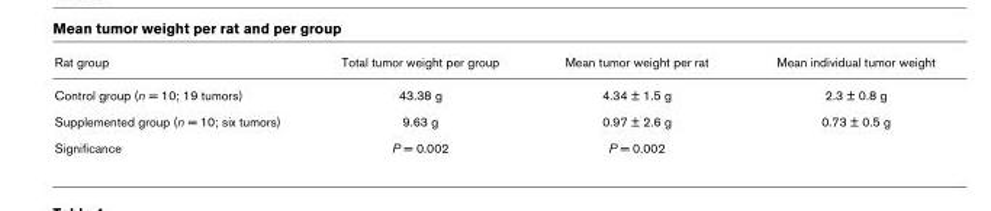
<table><thead><tr><td>Rat group</td><td>Total tumor weight per group</td><td>Mean tumor weight per rat</td><td>Mean individual tumor weight</td></tr></thead><tbody><tr><td>Control group (n = 10; 19 tumors)</td><td>43.38 g</td><td>4.34 ± 1.5 g</td><td>2.3 ± 0.8 g</td></tr><tr><td>Supplemented group (n = 10; six tumors)</td><td>9.63 g</td><td>0.97 ± 2.6 g</td><td>0.73 ± 0.5 g</td></tr><tr><td>Significance</td><td>P = 0.002</td><td>P = 0.002</td><td></td></tr></tbody></table>